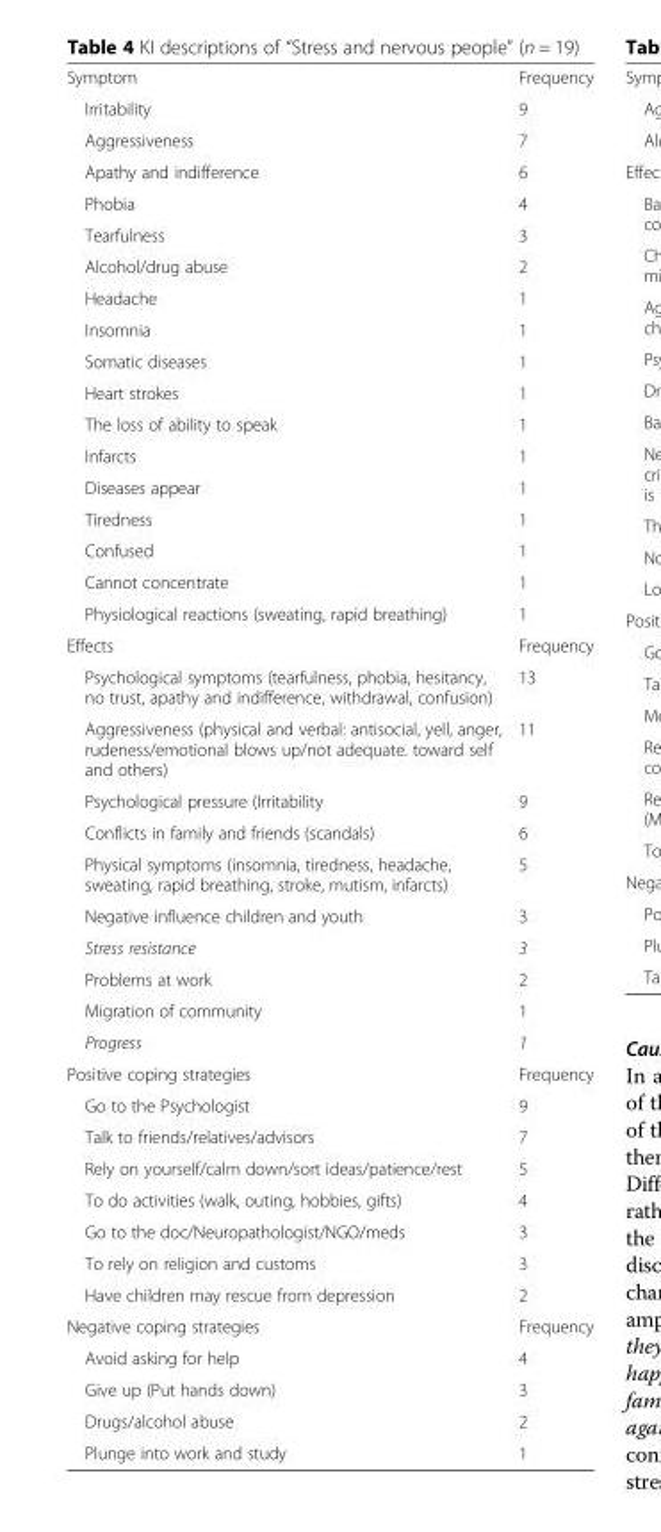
<table><tbody><tr><td>Symptom</td><td>Frequency</td></tr><tr><td>Irritability</td><td>9</td></tr><tr><td>Aggressiveness</td><td>7</td></tr><tr><td>Apathy and indifference</td><td>6</td></tr><tr><td>Phobia</td><td>4</td></tr><tr><td>Tearfulness</td><td>3</td></tr><tr><td>Alcohol/drug abuse</td><td>2</td></tr><tr><td>Headache</td><td>1</td></tr><tr><td>Insomnia</td><td>1</td></tr><tr><td>Somatic diseases</td><td>1</td></tr><tr><td>Heart strokes</td><td>1</td></tr><tr><td>The loss of ability to speak</td><td>1</td></tr><tr><td>Infarcts</td><td>1</td></tr><tr><td>Diseases appear</td><td>1</td></tr><tr><td>Tiredness</td><td>1</td></tr><tr><td>Confused</td><td>1</td></tr><tr><td>Cannot concentrate</td><td>1</td></tr><tr><td>Physiological reactions (sweating, rapid breathing)</td><td>1</td></tr><tr><td>Effects</td><td>Frequency</td></tr><tr><td>Psychological symptoms (tearfulness, phobia, hesitancy, no trust, apathy and indifference, withdrawal, confusion)</td><td>13</td></tr><tr><td>Aggressiveness (physical and verbal: antisocial, yell, anger, rudeness/emotional blows up/not adequate. toward self and others)</td><td>11</td></tr><tr><td>Psychological pressure (Irritability</td><td>9</td></tr><tr><td>Conflicts in family and friends (scandals)</td><td>6</td></tr><tr><td>Physical symptoms (insomnia, tiredness, headache, sweating, rapid breathing, stroke, mutism, infarcts)</td><td>5</td></tr><tr><td>Negative influence children and youth</td><td>3</td></tr><tr><td>Stress resistance</td><td>3</td></tr><tr><td>Problems at work</td><td>2</td></tr><tr><td>Migration of community</td><td>1</td></tr><tr><td>Progress</td><td>1</td></tr><tr><td>Positive coping strategies</td><td>Frequency</td></tr><tr><td>Go to the Psychologist</td><td>9</td></tr><tr><td>Talk to friends/relatives/advisors</td><td>7</td></tr><tr><td>Rely on yourself/calm down/sort ideas/patience/rest</td><td>5</td></tr><tr><td>To do activities (walk, outing, hobbies, gifts)</td><td>4</td></tr><tr><td>Go to the doc/Neuropathologist/NGO/meds</td><td>3</td></tr><tr><td>To rely on religion and customs</td><td>3</td></tr><tr><td>Have children may rescue from depression</td><td>2</td></tr><tr><td>Negative coping strategies</td><td>Frequency</td></tr><tr><td>Avoid asking for help</td><td>4</td></tr><tr><td>Give up (Put hands down)</td><td>3</td></tr><tr><td>Drugs/alcohol abuse</td><td>2</td></tr><tr><td>Plunge into work and study</td><td>1</td></tr></tbody></table>